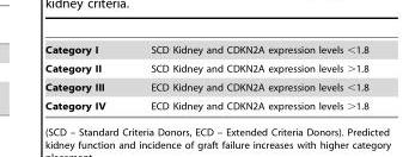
<table><tbody><tr><td>Category I</td><td>SCD Kidney and CDKN2A expression levels &lt;1.8</td></tr><tr><td>Category II</td><td>SCD Kidney and CDKN2A expression levels &gt;1.8</td></tr><tr><td>Category III</td><td>ECD Kidney and CDKN2A expression levels &lt;1.8</td></tr><tr><td>Category IV</td><td>ECD Kidney and CDKN2A expression levels &gt;1.8</td></tr></tbody></table>